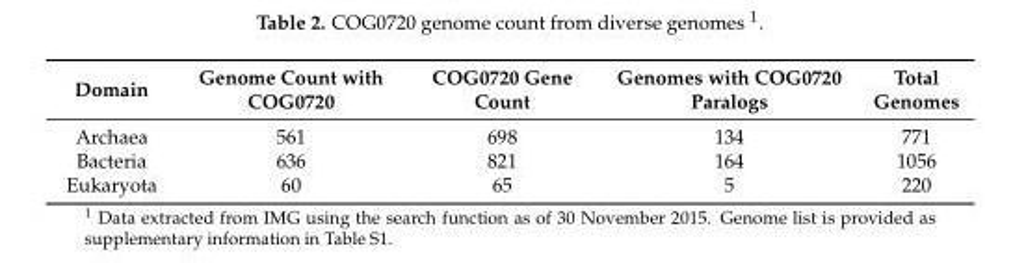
<table><thead><tr><td>Domain</td><td>Genome Count with COG0720</td><td>COG0720 Gene Count</td><td>Genomes with COG0720 Paralogs</td><td>Total Genomes</td></tr></thead><tbody><tr><td>Archaea</td><td>561</td><td>698</td><td>134</td><td>771</td></tr><tr><td>Bacteria</td><td>636</td><td>821</td><td>164</td><td>1056</td></tr><tr><td>Eukaryota</td><td>60</td><td>65</td><td>5</td><td>220</td></tr></tbody></table>